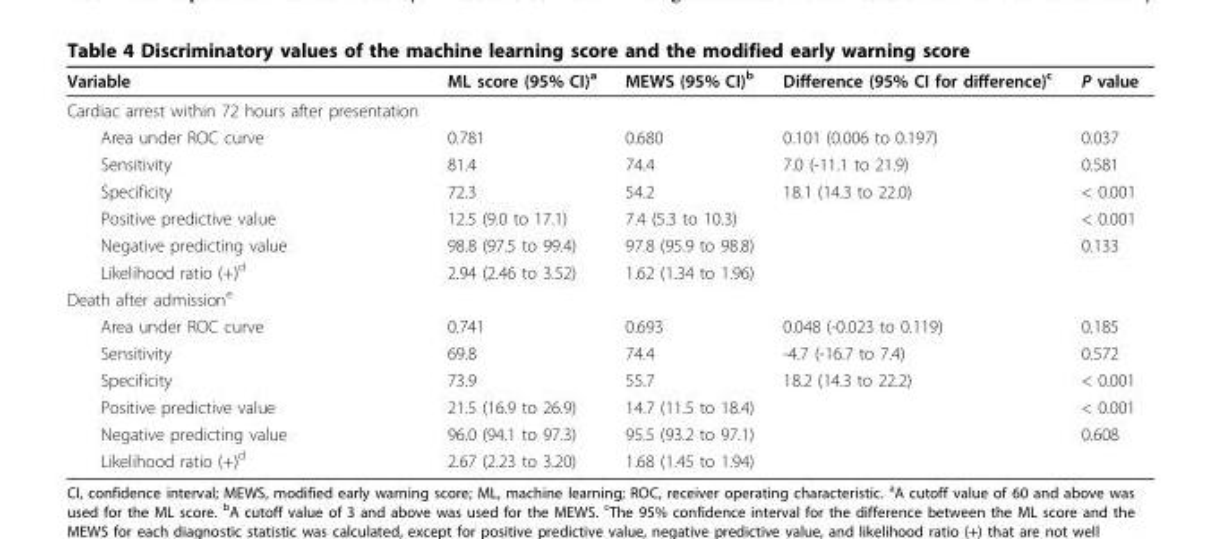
<table><thead><tr><td>Variable</td><td>ML score (95% CI)<sup>a</sup></td><td>MEWS (95% CI)<sup>b</sup></td><td>Difference (95% CI for difference)<sup>c</sup></td><td>P value</td></tr></thead><tbody><tr><td colspan="5">Cardiac arrest within 72 hours after presentation</td></tr><tr><td>Area under ROC curve</td><td>0.781</td><td>0.680</td><td>0.101 (0.006 to 0.197)</td><td>0.037</td></tr><tr><td>Sensitivity</td><td>81.4</td><td>74.4</td><td>7.0 (-11.1 to 21.9)</td><td>0.581</td></tr><tr><td>Specificity</td><td>72.3</td><td>54.2</td><td>18.1 (14.3 to 22.0)</td><td>&lt; 0.001</td></tr><tr><td>Positive predictive value</td><td>12.5 (9.0 to 17.1)</td><td>7.4 (5.3 to 10.3)</td><td></td><td>&lt; 0.001</td></tr><tr><td>Negative predicting value</td><td>98.8 (97.5 to 99.4)</td><td>97.8 (95.9 to 98.8)</td><td></td><td>0.133</td></tr><tr><td>Likelihood ratio (+)<sup>d</sup></td><td>2.94 (2.46 to 3.52)</td><td>1.62 (1.34 to 1.96)</td><td></td><td></td></tr><tr><td colspan="5">Death after admission<sup>e</sup></td></tr><tr><td>Area under ROC curve</td><td>0.741</td><td>0.693</td><td>0.048 (-0.023 to 0.119)</td><td>0.185</td></tr><tr><td>Sensitivity</td><td>69.8</td><td>74.4</td><td>-4.7 (-16.7 to 7.4)</td><td>0.572</td></tr><tr><td>Specificity</td><td>73.9</td><td>55.7</td><td>18.2 (14.3 to 22.2)</td><td>&lt; 0.001</td></tr><tr><td>Positive predictive value</td><td>21.5 (16.9 to 26.9)</td><td>14.7 (11.5 to 18.4)</td><td></td><td>&lt; 0.001</td></tr><tr><td>Negative predicting value</td><td>96.0 (94.1 to 97.3)</td><td>95.5 (93.2 to 97.1)</td><td></td><td>0.608</td></tr><tr><td>Likelihood ratio (+)<sup>d</sup></td><td>2.67 (2.23 to 3.20)</td><td>1.68 (1.45 to 1.94)</td><td></td><td></td></tr></tbody></table>